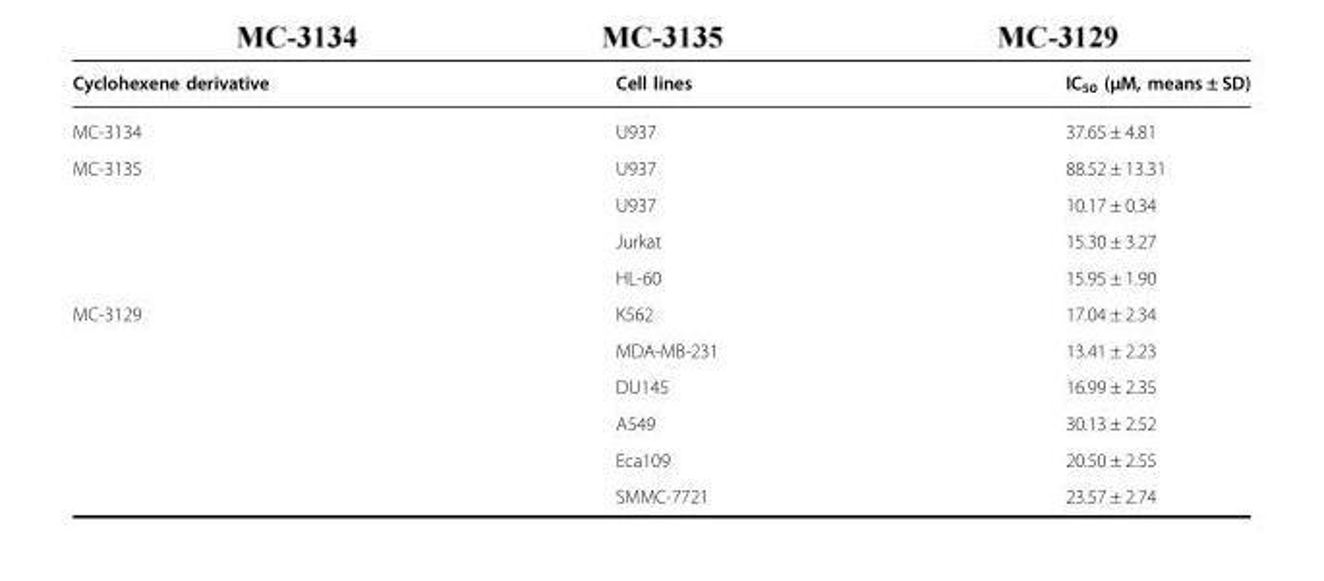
<table><thead><tr><td>Cyclohexene derivative</td><td>Cell lines</td><td>IC<sub>50</sub> (μM, means ± SD)</td></tr></thead><tbody><tr><td>MC-3134</td><td>U937</td><td>37.65 ± 4.81</td></tr><tr><td rowspan="4">MC-3135</td><td>U937</td><td>88.52 ± 13.31</td></tr><tr><td>U937</td><td>10.17 ± 0.34</td></tr><tr><td>Jurkat</td><td>15.30 ± 3.27</td></tr><tr><td>HL-60</td><td>15.95 ± 1.90</td></tr><tr><td rowspan="6">MC-3129</td><td>K562</td><td>17.04 ± 2.34</td></tr><tr><td>MDA-MB-231</td><td>13.41 ± 2.23</td></tr><tr><td>DU145</td><td>16.99 ± 2.35</td></tr><tr><td>A549</td><td>30.13 ± 2.52</td></tr><tr><td>Eca109</td><td>20.50 ± 2.55</td></tr><tr><td>SMMC-7721</td><td>23.57 ± 2.74</td></tr></tbody></table>